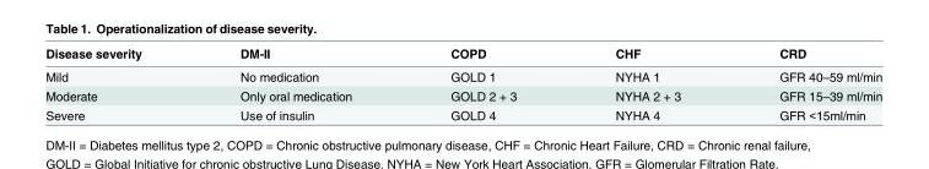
<table><thead><tr><td>Disease severity</td><td>DM-II</td><td>COPD</td><td>CHF</td><td>CRD</td></tr></thead><tbody><tr><td>Mild</td><td>No medication</td><td>GOLD 1</td><td>NYHA 1</td><td>GFR 40–59 ml/min</td></tr><tr><td>Moderate</td><td>Only oral medication</td><td>GOLD 2 + 3</td><td>NYHA 2 + 3</td><td>GFR 15–39 ml/min</td></tr><tr><td>Severe</td><td>Use of insulin</td><td>GOLD 4</td><td>NYHA 4</td><td>GFR &lt;15ml/min</td></tr></tbody></table>